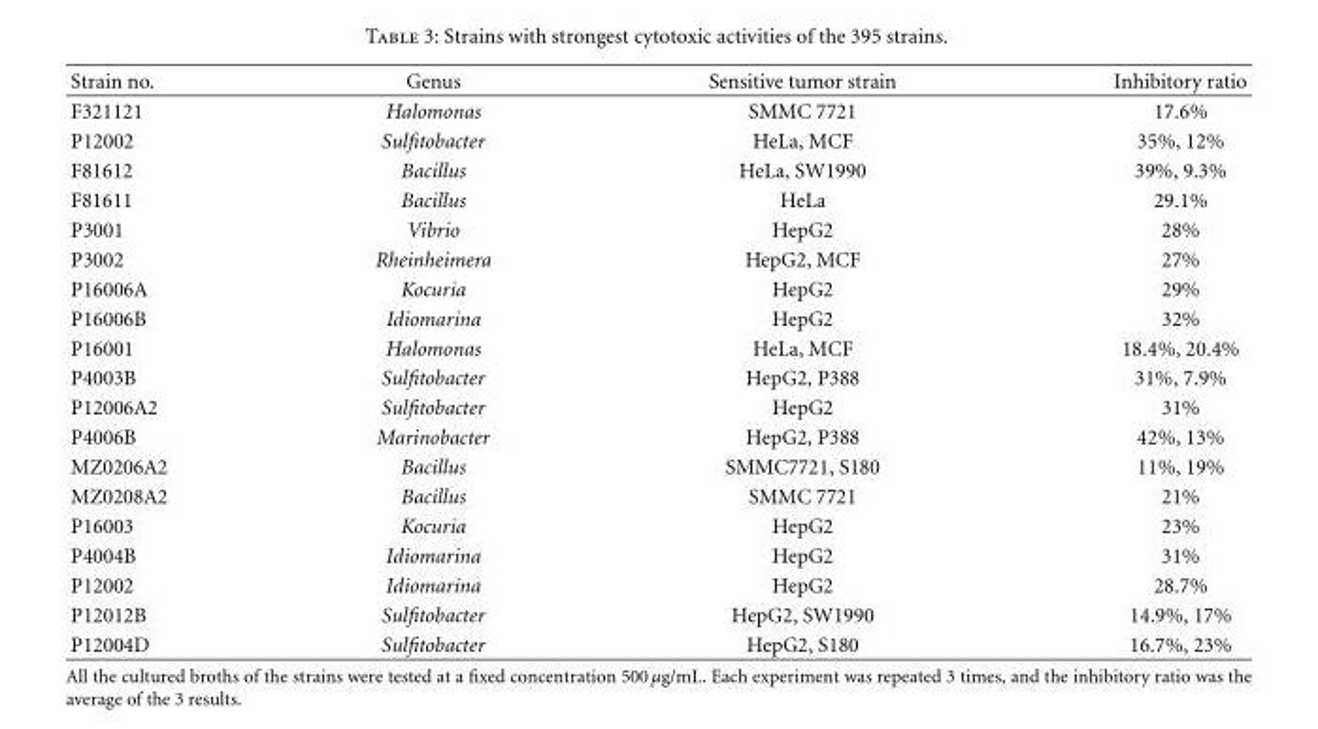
<table><thead><tr><td>Strain no.</td><td>Genus</td><td>Sensitive tumor strain</td><td>Inhibitory ratio</td></tr></thead><tbody><tr><td>F321121</td><td>Halomonas</td><td>SMMC 7721</td><td>17.6%</td></tr><tr><td>P12002</td><td>Sulfitobacter</td><td>HeLa, MCF</td><td>35%, 12%</td></tr><tr><td>F81612</td><td>Bacillus</td><td>HeLa, SW1990</td><td>39%, 9.3%</td></tr><tr><td>F81611</td><td>Bacillus</td><td>HeLa</td><td>29.1%</td></tr><tr><td>P3001</td><td>Vibrio</td><td>HepG2</td><td>28%</td></tr><tr><td>P3002</td><td>Rheinheimera</td><td>HepG2, MCF</td><td>27%</td></tr><tr><td>P16006A</td><td>Kocuria</td><td>HepG2</td><td>29%</td></tr><tr><td>P16006B</td><td>Idiomarina</td><td>HepG2</td><td>32%</td></tr><tr><td>P16001</td><td>Halomonas</td><td>HeLa, MCF</td><td>18.4%, 20.4%</td></tr><tr><td>P4003B</td><td>Sulfitobacter</td><td>HepG2, P388</td><td>31%, 7.9%</td></tr><tr><td>P12006A2</td><td>Sulfitobacter</td><td>HepG2</td><td>31%</td></tr><tr><td>P4006B</td><td>Marinobacter</td><td>HepG2, P388</td><td>42%, 13%</td></tr><tr><td>MZ0206A2</td><td>Bacillus</td><td>SMMC7721, S180</td><td>11%, 19%</td></tr><tr><td>MZ0208A2</td><td>Bacillus</td><td>SMMC 7721</td><td>21%</td></tr><tr><td>P16003</td><td>Kocuria</td><td>HepG2</td><td>23%</td></tr><tr><td>P4004B</td><td>Idiomarina</td><td>HepG2</td><td>31%</td></tr><tr><td>P12002</td><td>Idiomarina</td><td>HepG2</td><td>28.7%</td></tr><tr><td>P12012B</td><td>Sulfitobacter</td><td>HepG2, SW1990</td><td>14.9%, 17%</td></tr><tr><td>P12004D</td><td>Sulfitobacter</td><td>HepG2, S180</td><td>16.7%, 23%</td></tr></tbody></table>